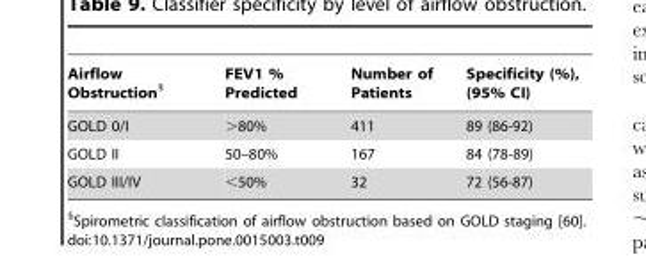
<table><thead><tr><td>Airflow Obstruction§</td><td>FEV1 % Predicted</td><td>Number of Patients</td><td>Specificity (%), (95% CI)</td></tr></thead><tbody><tr><td>GOLD 0/I</td><td>&gt;80%</td><td>411</td><td>89 (86-92)</td></tr><tr><td>GOLD II</td><td>50–80%</td><td>167</td><td>84 (78-89)</td></tr><tr><td>GOLD III/IV</td><td>&lt;50%</td><td>32</td><td>72 (56-87)</td></tr></tbody></table>